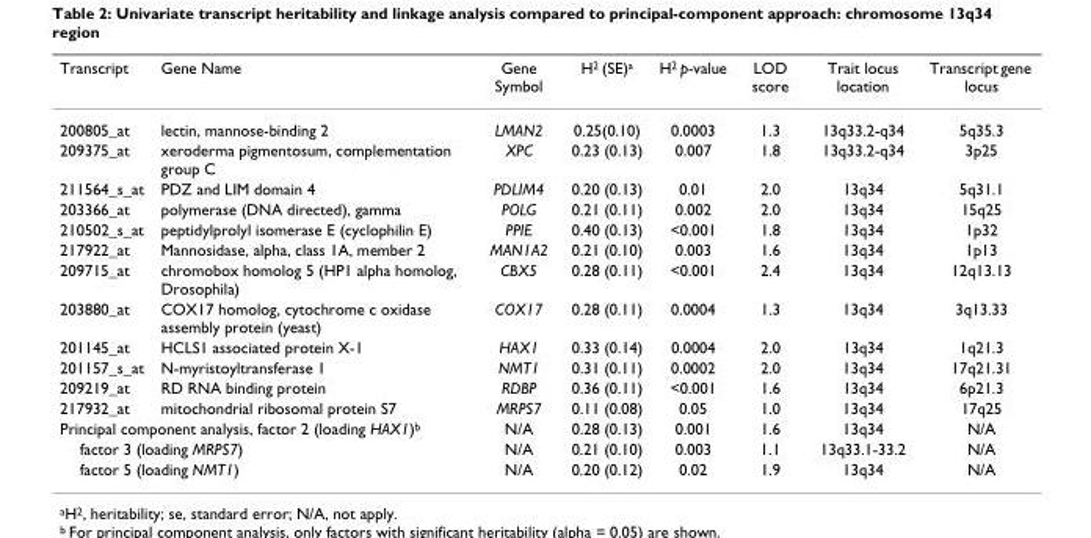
<table><thead><tr><td>Transcript</td><td>Gene Name</td><td>Gene Symbol</td><td>H<sup>2</sup> (SE)<sup>a</sup></td><td>H<sup>2</sup> p-value</td><td>LOD score</td><td>Trait locus location</td><td>Transcript gene locus</td></tr></thead><tbody><tr><td>200805_at</td><td>lectin, mannose-binding 2</td><td>LMAN2</td><td>0.25(0.10)</td><td>0.0003</td><td>1.3</td><td>13q33.2-q34</td><td>5q35.3</td></tr><tr><td>209375_at</td><td>xeroderma pigmentosum, complementation group C</td><td>XPC</td><td>0.23 (0.13)</td><td>0.007</td><td>1.8</td><td>13q33.2-q34</td><td>3p25</td></tr><tr><td>211564_s_at</td><td>PDZ and LIM domain 4</td><td>PDLIM4</td><td>0.20 (0.13)</td><td>0.01</td><td>2.0</td><td>13q34</td><td>5q31.1</td></tr><tr><td>203366_at</td><td>polymerase (DNA directed), gamma</td><td>POLG</td><td>0.21 (0.11)</td><td>0.002</td><td>2.0</td><td>13q34</td><td>15q25</td></tr><tr><td>210502_s_at</td><td>peptidylprolyl isomerase E (cyclophilin E)</td><td>PPIE</td><td>0.40 (0.13)</td><td>&lt;0.001</td><td>1.8</td><td>13q34</td><td>1p32</td></tr><tr><td>217922_at</td><td>Mannosidase, alpha, class 1A, member 2</td><td>MAN1A2</td><td>0.21 (0.10)</td><td>0.003</td><td>1.6</td><td>13q34</td><td>1p13</td></tr><tr><td>209715_at</td><td>chromobox homolog 5 (HP1 alpha homolog, Drosophila)</td><td>CBX5</td><td>0.28 (0.11)</td><td>&lt;0.001</td><td>2.4</td><td>13q34</td><td>12q13.13</td></tr><tr><td>203880_at</td><td>COX17 homolog, cytochrome c oxidase assembly protein (yeast)</td><td>COX17</td><td>0.28 (0.11)</td><td>0.0004</td><td>1.3</td><td>13q34</td><td>3q13.33</td></tr><tr><td>201145_at</td><td>HCLS1 associated protein X-1</td><td>HAX1</td><td>0.33 (0.14)</td><td>0.0004</td><td>2.0</td><td>13q34</td><td>1q21.3</td></tr><tr><td>201157_s_at</td><td>N-myristoyltransferase 1</td><td>NMT1</td><td>0.31 (0.11)</td><td>0.0002</td><td>2.0</td><td>13q34</td><td>17q21.31</td></tr><tr><td>209219_at</td><td>RD RNA binding protein</td><td>RDBP</td><td>0.36 (0.11)</td><td>&lt;0.001</td><td>1.6</td><td>13q34</td><td>6p21.3</td></tr><tr><td>217932_at</td><td>mitochondrial ribosomal protein S7</td><td>MRPS7</td><td>0.11 (0.08)</td><td>0.05</td><td>1.0</td><td>13q34</td><td>17q25</td></tr><tr><td colspan="2">Principal component analysis, factor 2 (loading HAX1)<sup>b</sup></td><td>N/A</td><td>0.28 (0.13)</td><td>0.001</td><td>1.6</td><td>13q34</td><td>N/A</td></tr><tr><td colspan="2">factor 3 (loading MRPS7)</td><td>N/A</td><td>0.21 (0.10)</td><td>0.003</td><td>1.1</td><td>13q33.1-33.2</td><td>N/A</td></tr><tr><td colspan="2">factor 5 (loading NMT1)</td><td>N/A</td><td>0.20 (0.12)</td><td>0.02</td><td>1.9</td><td>13q34</td><td>N/A</td></tr></tbody></table>